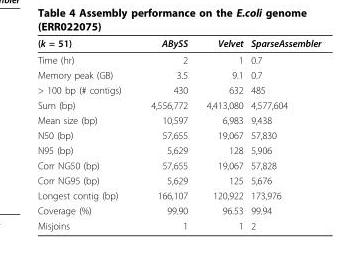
<table><thead><tr><td>(k = 51)</td><td>ABySS</td><td>Velvet</td><td>SparseAssembler</td></tr></thead><tbody><tr><td>Time (hr)</td><td>2</td><td>1</td><td>0.7</td></tr><tr><td>Memory peak (GB)</td><td>3.5</td><td>9.1</td><td>0.7</td></tr><tr><td>&gt; 100 bp (# contigs)</td><td>430</td><td>632</td><td>485</td></tr><tr><td>Sum (bp)</td><td>4,556,772</td><td>4,413,080</td><td>4,577,604</td></tr><tr><td>Mean size (bp)</td><td>10,597</td><td>6,983</td><td>9,438</td></tr><tr><td>N50 (bp)</td><td>57,655</td><td>19,067</td><td>57,830</td></tr><tr><td>N95 (bp)</td><td>5,629</td><td>128</td><td>5,906</td></tr><tr><td>Corr NG50 (bp)</td><td>57,655</td><td>19,067</td><td>57,828</td></tr><tr><td>Corr NG95 (bp)</td><td>5,629</td><td>125</td><td>5,676</td></tr><tr><td>Longest contig (bp)</td><td>166,107</td><td>120,922</td><td>173,976</td></tr><tr><td>Coverage (%)</td><td>99.90</td><td>96.53</td><td>99.94</td></tr><tr><td>Misjoins</td><td>1</td><td>1</td><td>2</td></tr></tbody></table>